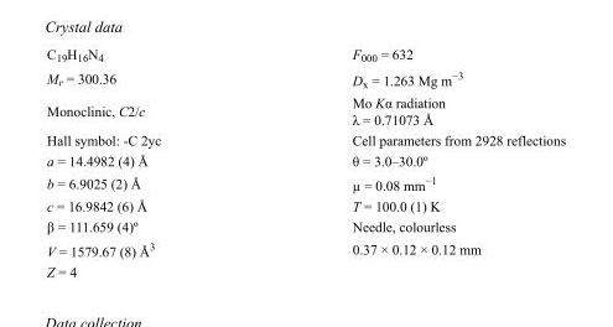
<table><tbody><tr><td>C<sub>19</sub>H<sub>16</sub>N<sub>4</sub></td><td>F<sub>000</sub> = 632</td></tr><tr><td>M<sub>r</sub> = 300.36</td><td>D<sub>x</sub> = 1.263 Mg m<sup>−3</sup></td></tr><tr><td>Monoclinic, C2/c</td><td>Mo Kα radiation λ = 0.71073 Å</td></tr><tr><td>Hall symbol: -C 2yc</td><td>Cell parameters from 2928 reflections</td></tr><tr><td>a = 14.4982 (4) Å</td><td>θ = 3.0–30.0º</td></tr><tr><td>b = 6.9025 (2) Å</td><td>µ = 0.08 mm<sup>−1</sup></td></tr><tr><td>c = 16.9842 (6) Å</td><td>T = 100.0 (1) K</td></tr><tr><td>β = 111.659 (4)º</td><td>Needle, colourless</td></tr><tr><td>V = 1579.67 (8) Å<sup>3</sup></td><td>0.37 × 0.12 × 0.12 mm</td></tr><tr><td>Z = 4</td><td></td></tr></tbody></table>